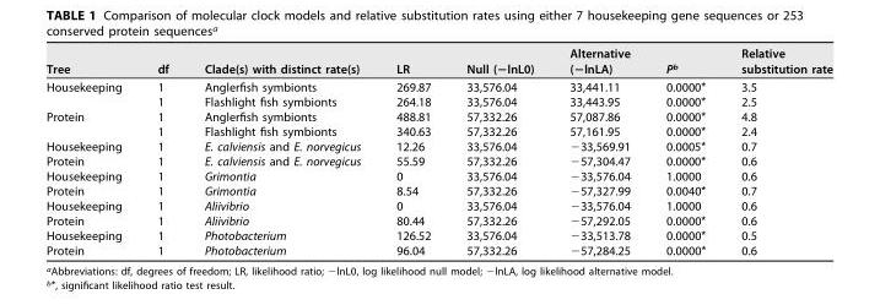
<table><thead><tr><td>Tree</td><td>df</td><td>Clade(s) with distinct rate(s)</td><td>LR</td><td>Null (−lnL0)</td><td>Alternative (−lnLA)</td><td>P<sup>b</sup></td><td>Relative substitution rate</td></tr></thead><tbody><tr><td rowspan="2">Housekeeping</td><td>1</td><td>Anglerfish symbionts</td><td>269.87</td><td>33,576.04</td><td>33,441.11</td><td>0.0000*</td><td>3.5</td></tr><tr><td>1</td><td>Flashlight fish symbionts</td><td>264.18</td><td>33,576.04</td><td>33,443.95</td><td>0.0000*</td><td>2.5</td></tr><tr><td rowspan="2">Protein</td><td>1</td><td>Anglerfish symbionts</td><td>488.81</td><td>57,332.26</td><td>57,087.86</td><td>0.0000*</td><td>4.8</td></tr><tr><td>1</td><td>Flashlight fish symbionts</td><td>340.63</td><td>57,332.26</td><td>57,161.95</td><td>0.0000*</td><td>2.4</td></tr><tr><td>Housekeeping</td><td>1</td><td>E. calviensis and E. norvegicus</td><td>12.26</td><td>33,576.04</td><td>−33,569.91</td><td>0.0005*</td><td>0.7</td></tr><tr><td>Protein</td><td>1</td><td>E. calviensis and E. norvegicus</td><td>55.59</td><td>57,332.26</td><td>−57,304.47</td><td>0.0000*</td><td>0.6</td></tr><tr><td>Housekeeping</td><td>1</td><td>Grimontia</td><td>0</td><td>33,576.04</td><td>−33,576.04</td><td>1.0000</td><td>0.6</td></tr><tr><td>Protein</td><td>1</td><td>Grimontia</td><td>8.54</td><td>57,332.26</td><td>−57,327.99</td><td>0.0040*</td><td>0.7</td></tr><tr><td>Housekeeping</td><td>1</td><td>Aliivibrio</td><td>0</td><td>33,576.04</td><td>−33,576.04</td><td>1.0000</td><td>0.6</td></tr><tr><td>Protein</td><td>1</td><td>Aliivibrio</td><td>80.44</td><td>57,332.26</td><td>−57,292.05</td><td>0.0000*</td><td>0.6</td></tr><tr><td>Housekeeping</td><td>1</td><td>Photobacterium</td><td>126.52</td><td>33,576.04</td><td>−33,513.78</td><td>0.0000*</td><td>0.5</td></tr><tr><td>Protein</td><td>1</td><td>Photobacterium</td><td>96.04</td><td>57,332.26</td><td>−57,284.25</td><td>0.0000*</td><td>0.6</td></tr></tbody></table>